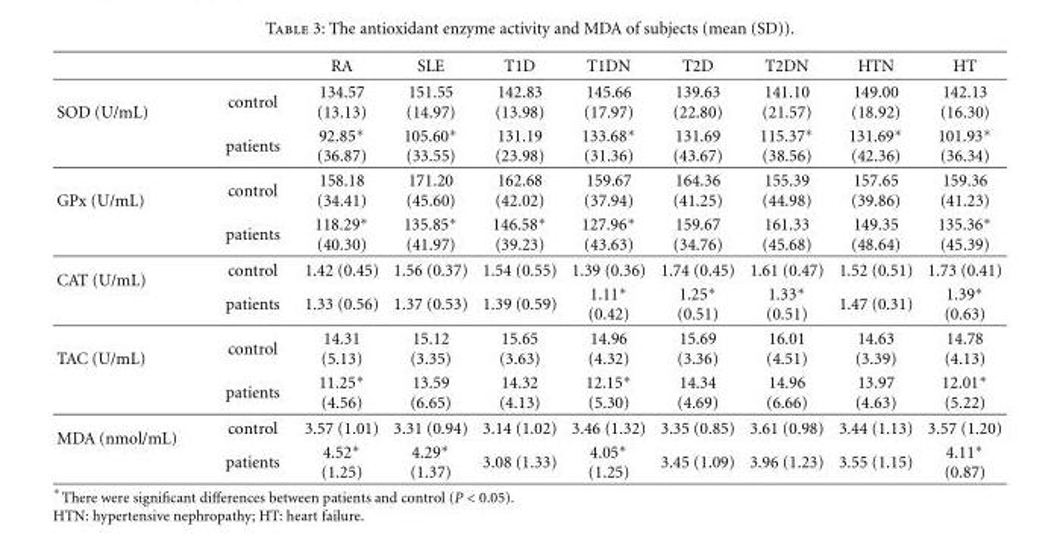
<table><thead><tr><td></td><td></td><td>RA</td><td>SLE</td><td>T1D</td><td>T1DN</td><td>T2D</td><td>T2DN</td><td>HTN</td><td>HT</td></tr></thead><tbody><tr><td rowspan="2">SOD (U/mL)</td><td>control</td><td>134.57 (13.13)</td><td>151.55 (14.97)</td><td>142.83 (13.98)</td><td>145.66 (17.97)</td><td>139.63 (22.80)</td><td>141.10 (21.57)</td><td>149.00 (18.92)</td><td>142.13 (16.30)</td></tr><tr><td>patients</td><td>92.85∗ (36.87)</td><td>105.60∗ (33.55)</td><td>131.19 (23.98)</td><td>133.68∗ (31.36)</td><td>131.69 (43.67)</td><td>115.37∗ (38.56)</td><td>131.69∗ (42.36)</td><td>101.93∗ (36.34)</td></tr><tr><td rowspan="2">GPx (U/mL)</td><td>control</td><td>158.18 (34.41)</td><td>171.20 (45.60)</td><td>162.68 (42.02)</td><td>159.67 (37.94)</td><td>164.36 (41.25)</td><td>155.39 (44.98)</td><td>157.65 (39.86)</td><td>159.36 (41.23)</td></tr><tr><td>patients</td><td>118.29∗ (40.30)</td><td>135.85∗ (41.97)</td><td>146.58∗ (39.23)</td><td>127.96∗ (43.63)</td><td>159.67 (34.76)</td><td>161.33 (45.68)</td><td>149.35 (48.64)</td><td>135.36∗ (45.39)</td></tr><tr><td rowspan="2">CAT (U/mL)</td><td>control</td><td>1.42 (0.45)</td><td>1.56 (0.37)</td><td>1.54 (0.55)</td><td>1.39 (0.36)</td><td>1.74 (0.45)</td><td>1.61 (0.47)</td><td>1.52 (0.51)</td><td>1.73 (0.41)</td></tr><tr><td>patients</td><td>1.33 (0.56)</td><td>1.37 (0.53)</td><td>1.39 (0.59)</td><td>1.11∗ (0.42)</td><td>1.25∗ (0.51)</td><td>1.33∗ (0.51)</td><td>1.47 (0.31)</td><td>1.39∗ (0.63)</td></tr><tr><td rowspan="2">TAC (U/mL)</td><td>control</td><td>14.31 (5.13)</td><td>15.12 (3.35)</td><td>15.65 (3.63)</td><td>14.96 (4.32)</td><td>15.69 (3.36)</td><td>16.01 (4.51)</td><td>14.63 (3.39)</td><td>14.78 (4.13)</td></tr><tr><td>patients</td><td>11.25∗ (4.56)</td><td>13.59 (6.65)</td><td>14.32 (4.13)</td><td>12.15∗ (5.30)</td><td>14.34 (4.69)</td><td>14.96 (6.66)</td><td>13.97 (4.63)</td><td>12.01∗ (5.22)</td></tr><tr><td rowspan="2">MDA (nmol/mL)</td><td>control</td><td>3.57 (1.01)</td><td>3.31 (0.94)</td><td>3.14 (1.02)</td><td>3.46 (1.32)</td><td>3.35 (0.85)</td><td>3.61 (0.98)</td><td>3.44 (1.13)</td><td>3.57 (1.20)</td></tr><tr><td>patients</td><td>4.52∗ (1.25)</td><td>4.29∗ (1.37)</td><td>3.08 (1.33)</td><td>4.05∗ (1.25)</td><td>3.45 (1.09)</td><td>3.96 (1.23)</td><td>3.55 (1.15)</td><td>4.11∗ (0.87)</td></tr></tbody></table>